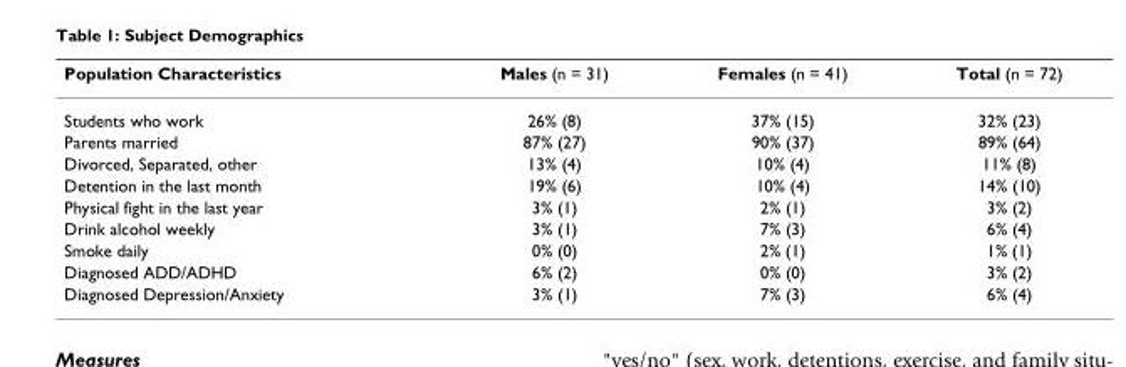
<table><thead><tr><td>Population Characteristics</td><td>Males (n = 31)</td><td>Females (n = 41)</td><td>Total (n = 72)</td></tr></thead><tbody><tr><td>Students who work</td><td>26% (8)</td><td>37% (15)</td><td>32% (23)</td></tr><tr><td>Parents married</td><td>87% (27)</td><td>90% (37)</td><td>89% (64)</td></tr><tr><td>Divorced, Separated, other</td><td>13% (4)</td><td>10% (4)</td><td>11% (8)</td></tr><tr><td>Detention in the last month</td><td>19% (6)</td><td>10% (4)</td><td>14% (10)</td></tr><tr><td>Physical fight in the last year</td><td>3% (1)</td><td>2% (1)</td><td>3% (2)</td></tr><tr><td>Drink alcohol weekly</td><td>3% (1)</td><td>7% (3)</td><td>6% (4)</td></tr><tr><td>Smoke daily</td><td>0% (0)</td><td>2% (1)</td><td>1% (1)</td></tr><tr><td>Diagnosed ADD/ADHD</td><td>6% (2)</td><td>0% (0)</td><td>3% (2)</td></tr><tr><td>Diagnosed Depression/Anxiety</td><td>3% (1)</td><td>7% (3)</td><td>6% (4)</td></tr></tbody></table>